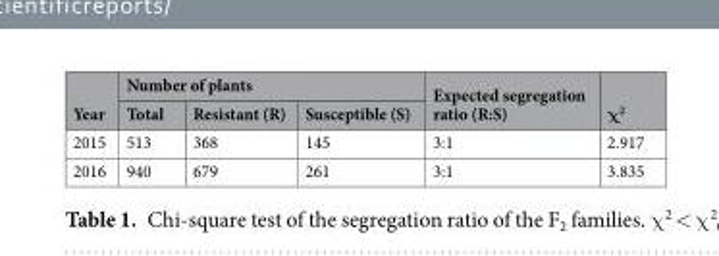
<table><thead><tr><td rowspan="2">Year</td><td colspan="3">Number of plants</td><td rowspan="2">Expected segregation ratio (R:S)</td><td rowspan="2">χ<sup>2</sup></td></tr><tr><td>Total</td><td>Resistant (R)</td><td>Susceptible (S)</td></tr></thead><tbody><tr><td>2015</td><td>513</td><td>368</td><td>145</td><td>3:1</td><td>2.917</td></tr><tr><td>2016</td><td>940</td><td>679</td><td>261</td><td>3:1</td><td>3.835</td></tr></tbody></table>